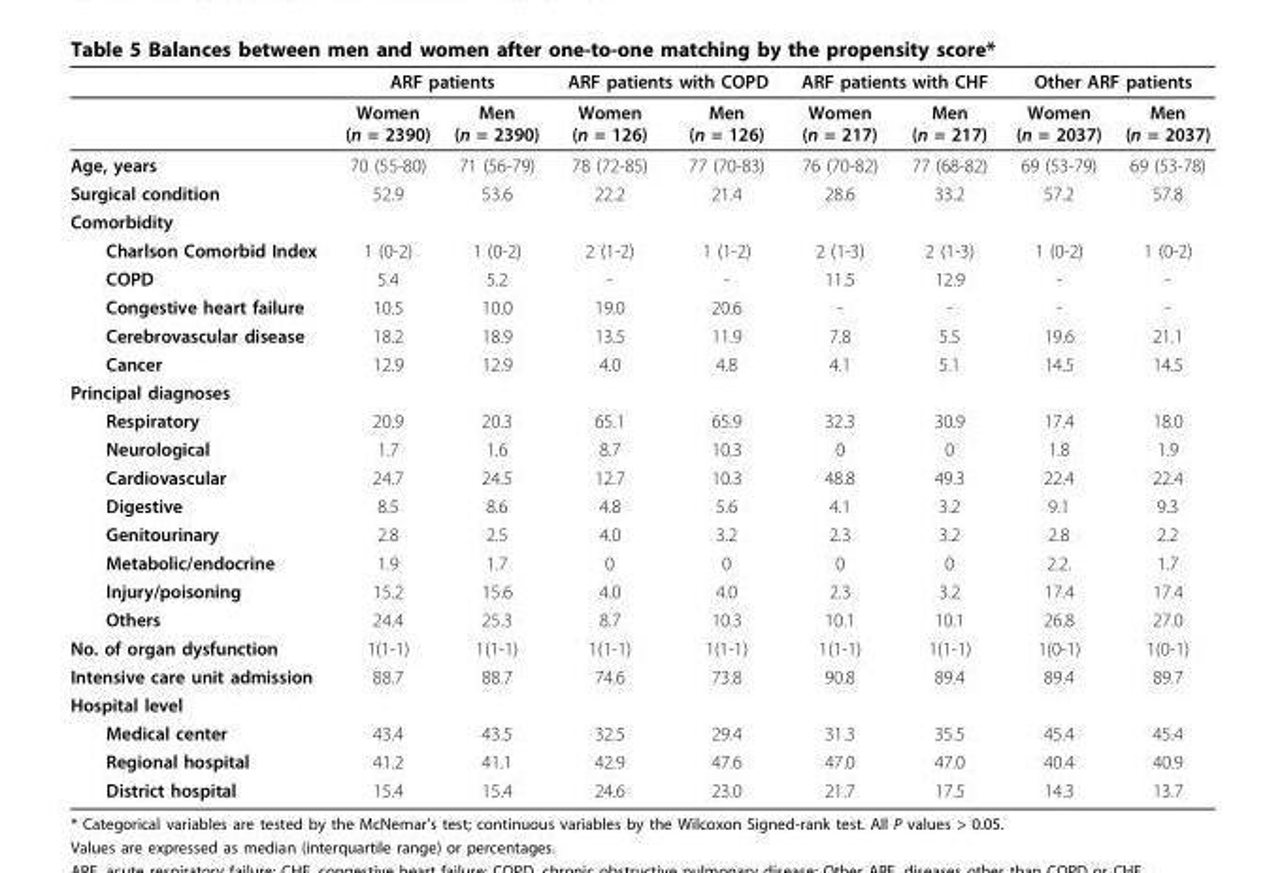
<table><thead><tr><td rowspan="2"></td><td colspan="2">ARF patients</td><td colspan="2">ARF patients with COPD</td><td colspan="2">ARF patients with CHF</td><td colspan="2">Other ARF patients</td></tr><tr><td>Women (n = 2390)</td><td>Men (n = 2390)</td><td>Women (n = 126)</td><td>Men (n = 126)</td><td>Women (n = 217)</td><td>Men (n = 217)</td><td>Women (n = 2037)</td><td>Men (n = 2037)</td></tr></thead><tbody><tr><td>Age, years</td><td>70 (55-80)</td><td>71 (56-79)</td><td>78 (72-85)</td><td>77 (70-83)</td><td>76 (70-82)</td><td>77 (68-82)</td><td>69 (53-79)</td><td>69 (53-78)</td></tr><tr><td>Surgical condition</td><td>52.9</td><td>53.6</td><td>22.2</td><td>21.4</td><td>28.6</td><td>33.2</td><td>57.2</td><td>57.8</td></tr><tr><td colspan="9">Comorbidity</td></tr><tr><td>Charlson Comorbid Index</td><td>1 (0-2)</td><td>1 (0-2)</td><td>2 (1-2)</td><td>1 (1-2)</td><td>2 (1-3)</td><td>2 (1-3)</td><td>1 (0-2)</td><td>1 (0-2)</td></tr><tr><td>COPD</td><td>5.4</td><td>5.2</td><td>-</td><td>-</td><td>11.5</td><td>12.9</td><td>-</td><td>-</td></tr><tr><td>Congestive heart failure</td><td>10.5</td><td>10.0</td><td>19.0</td><td>20.6</td><td>-</td><td>-</td><td>-</td><td>-</td></tr><tr><td>Cerebrovascular disease</td><td>18.2</td><td>18.9</td><td>13.5</td><td>11.9</td><td>7.8</td><td>5.5</td><td>19.6</td><td>21.1</td></tr><tr><td>Cancer</td><td>12.9</td><td>12.9</td><td>4.0</td><td>4.8</td><td>4.1</td><td>5.1</td><td>14.5</td><td>14.5</td></tr><tr><td colspan="9">Principal diagnoses</td></tr><tr><td>Respiratory</td><td>20.9</td><td>20.3</td><td>65.1</td><td>65.9</td><td>32.3</td><td>30.9</td><td>17.4</td><td>18.0</td></tr><tr><td>Neurological</td><td>1.7</td><td>1.6</td><td>8.7</td><td>10.3</td><td>0</td><td>0</td><td>1.8</td><td>1.9</td></tr><tr><td>Cardiovascular</td><td>24.7</td><td>24.5</td><td>12.7</td><td>10.3</td><td>48.8</td><td>49.3</td><td>22.4</td><td>22.4</td></tr><tr><td>Digestive</td><td>8.5</td><td>8.6</td><td>4.8</td><td>5.6</td><td>4.1</td><td>3.2</td><td>9.1</td><td>9.3</td></tr><tr><td>Genitourinary</td><td>2.8</td><td>2.5</td><td>4.0</td><td>3.2</td><td>2.3</td><td>3.2</td><td>2.8</td><td>2.2</td></tr><tr><td>Metabolic/endocrine</td><td>1.9</td><td>1.7</td><td>0</td><td>0</td><td>0</td><td>0</td><td>2.2.</td><td>1.7</td></tr><tr><td>Injury/poisoning</td><td>15.2</td><td>15.6</td><td>4.0</td><td>4.0</td><td>2.3</td><td>3.2</td><td>17.4</td><td>17.4</td></tr><tr><td>Others</td><td>24.4</td><td>25.3</td><td>8.7</td><td>10.3</td><td>10.1</td><td>10.1</td><td>26.8</td><td>27.0</td></tr><tr><td>No. of organ dysfunction</td><td>1(1-1)</td><td>1(1-1)</td><td>1(1-1)</td><td>1(1-1)</td><td>1(1-1)</td><td>1(1-1)</td><td>1(0-1)</td><td>1(0-1)</td></tr><tr><td>Intensive care unit admission</td><td>88.7</td><td>88.7</td><td>74.6</td><td>73.8</td><td>90.8</td><td>89.4</td><td>89.4</td><td>89.7</td></tr><tr><td colspan="9">Hospital level</td></tr><tr><td>Medical center</td><td>43.4</td><td>43.5</td><td>32.5</td><td>29.4</td><td>31.3</td><td>35.5</td><td>45.4</td><td>45.4</td></tr><tr><td>Regional hospital</td><td>41.2</td><td>41.1</td><td>42.9</td><td>47.6</td><td>47.0</td><td>47.0</td><td>40.4</td><td>40.9</td></tr><tr><td>District hospital</td><td>15.4</td><td>15.4</td><td>24.6</td><td>23.0</td><td>21.7</td><td>17.5</td><td>14.3</td><td>13.7</td></tr></tbody></table>